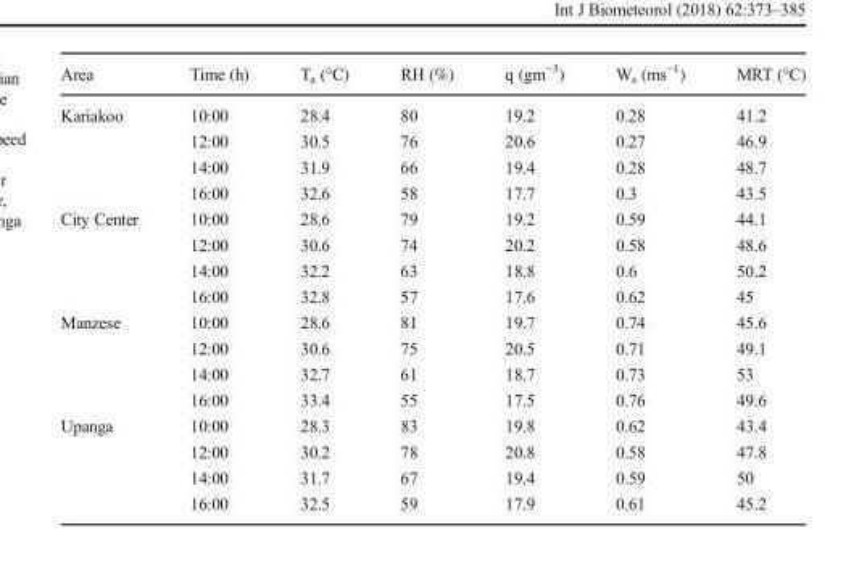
<table><thead><tr><td>Area</td><td>Time (h)</td><td>T<sub>a</sub> (°C)</td><td>RH (%)</td><td>q (gm<sup>−3</sup>)</td><td>W<sub>s</sub> (ms<sup>−1</sup>)</td><td>MRT (°C)</td></tr></thead><tbody><tr><td rowspan="4">Kariakoo</td><td>10:00</td><td>28.4</td><td>80</td><td>19.2</td><td>0.28</td><td>41.2</td></tr><tr><td>12:00</td><td>30.5</td><td>76</td><td>20.6</td><td>0.27</td><td>46.9</td></tr><tr><td>14:00</td><td>31.9</td><td>66</td><td>19.4</td><td>0.28</td><td>48.7</td></tr><tr><td>16:00</td><td>32.6</td><td>58</td><td>17.7</td><td>0.3</td><td>43.5</td></tr><tr><td rowspan="4">City Center</td><td>10:00</td><td>28.6</td><td>79</td><td>19.2</td><td>0.59</td><td>44.1</td></tr><tr><td>12:00</td><td>30.6</td><td>74</td><td>20.2</td><td>0.58</td><td>48.6</td></tr><tr><td>14:00</td><td>32.2</td><td>63</td><td>18.8</td><td>0.6</td><td>50.2</td></tr><tr><td>16:00</td><td>32.8</td><td>57</td><td>17.6</td><td>0.62</td><td>45</td></tr><tr><td rowspan="4">Manzese</td><td>10:00</td><td>28.6</td><td>81</td><td>19.7</td><td>0.74</td><td>45.6</td></tr><tr><td>12:00</td><td>30.6</td><td>75</td><td>20.5</td><td>0.71</td><td>49.1</td></tr><tr><td>14:00</td><td>32.7</td><td>61</td><td>18.7</td><td>0.73</td><td>53</td></tr><tr><td>16:00</td><td>33.4</td><td>55</td><td>17.5</td><td>0.76</td><td>49.6</td></tr><tr><td rowspan="4">Upanga</td><td>10:00</td><td>28.3</td><td>83</td><td>19.8</td><td>0.62</td><td>43.4</td></tr><tr><td>12:00</td><td>30.2</td><td>78</td><td>20.8</td><td>0.58</td><td>47.8</td></tr><tr><td>14:00</td><td>31.7</td><td>67</td><td>19.4</td><td>0.59</td><td>50</td></tr><tr><td>16:00</td><td>32.5</td><td>59</td><td>17.9</td><td>0.61</td><td>45.2</td></tr></tbody></table>